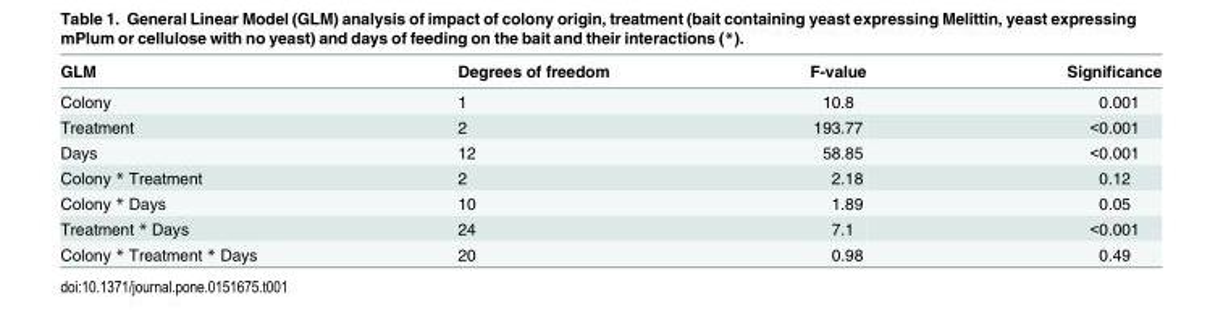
<table><thead><tr><td>GLM</td><td>Degrees of freedom</td><td>F-value</td><td>Significance</td></tr></thead><tbody><tr><td>Colony</td><td>1</td><td>10.8</td><td>0.001</td></tr><tr><td>Treatment</td><td>2</td><td>193.77</td><td>&lt;0.001</td></tr><tr><td>Days</td><td>12</td><td>58.85</td><td>&lt;0.001</td></tr><tr><td>Colony * Treatment</td><td>2</td><td>2.18</td><td>0.12</td></tr><tr><td>Colony * Days</td><td>10</td><td>1.89</td><td>0.05</td></tr><tr><td>Treatment * Days</td><td>24</td><td>7.1</td><td>&lt;0.001</td></tr><tr><td>Colony * Treatment * Days</td><td>20</td><td>0.98</td><td>0.49</td></tr></tbody></table>